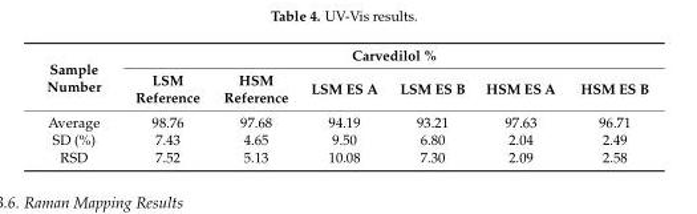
<table><thead><tr><td rowspan="2">Sample Number</td><td colspan="6">Carvedilol %</td></tr><tr><td>LSM Reference</td><td>HSM Reference</td><td>LSM ES A</td><td>LSM ES B</td><td>HSM ES A</td><td>HSM ES B</td></tr></thead><tbody><tr><td>Average</td><td>98.76</td><td>97.68</td><td>94.19</td><td>93.21</td><td>97.63</td><td>96.71</td></tr><tr><td>SD (%)</td><td>7.43</td><td>4.65</td><td>9.50</td><td>6.80</td><td>2.04</td><td>2.49</td></tr><tr><td>RSD</td><td>7.52</td><td>5.13</td><td>10.08</td><td>7.30</td><td>2.09</td><td>2.58</td></tr></tbody></table>